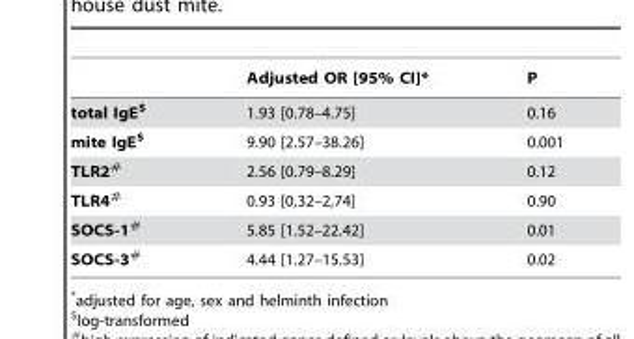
<table><thead><tr><td></td><td>Adjusted OR [95% CI]*</td><td>P</td></tr></thead><tbody><tr><td>total IgE$</td><td>1.93 [0.78–4.75]</td><td>0.16</td></tr><tr><td>mite IgE$</td><td>9.90 [2.57–38.26]</td><td>0.001</td></tr><tr><td>TLR2#</td><td>2.56 [0.79–8.29]</td><td>0.12</td></tr><tr><td>TLR4#</td><td>0.93 [0,32–2,74]</td><td>0.90</td></tr><tr><td>SOCS-1#</td><td>5.85 [1.52–22.42]</td><td>0.01</td></tr><tr><td>SOCS-3#</td><td>4.44 [1.27–15.53]</td><td>0.02</td></tr></tbody></table>